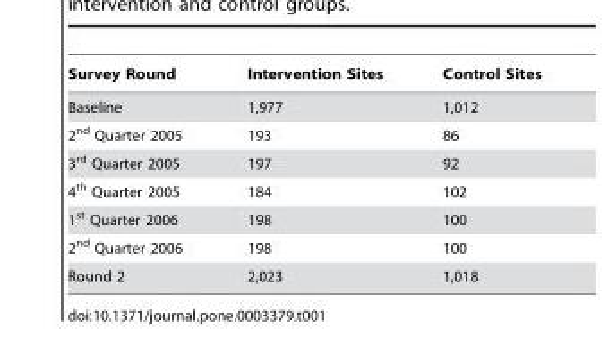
<table><thead><tr><td>Survey Round</td><td>Intervention Sites</td><td>Control Sites</td></tr></thead><tbody><tr><td>Baseline</td><td>1,977</td><td>1,012</td></tr><tr><td>2<sup>nd</sup> Quarter 2005</td><td>193</td><td>86</td></tr><tr><td>3<sup>rd</sup> Quarter 2005</td><td>197</td><td>92</td></tr><tr><td>4<sup>th</sup> Quarter 2005</td><td>184</td><td>102</td></tr><tr><td>1<sup>st</sup> Quarter 2006</td><td>198</td><td>100</td></tr><tr><td>2<sup>nd</sup> Quarter 2006</td><td>198</td><td>100</td></tr><tr><td>Round 2</td><td>2,023</td><td>1,018</td></tr></tbody></table>